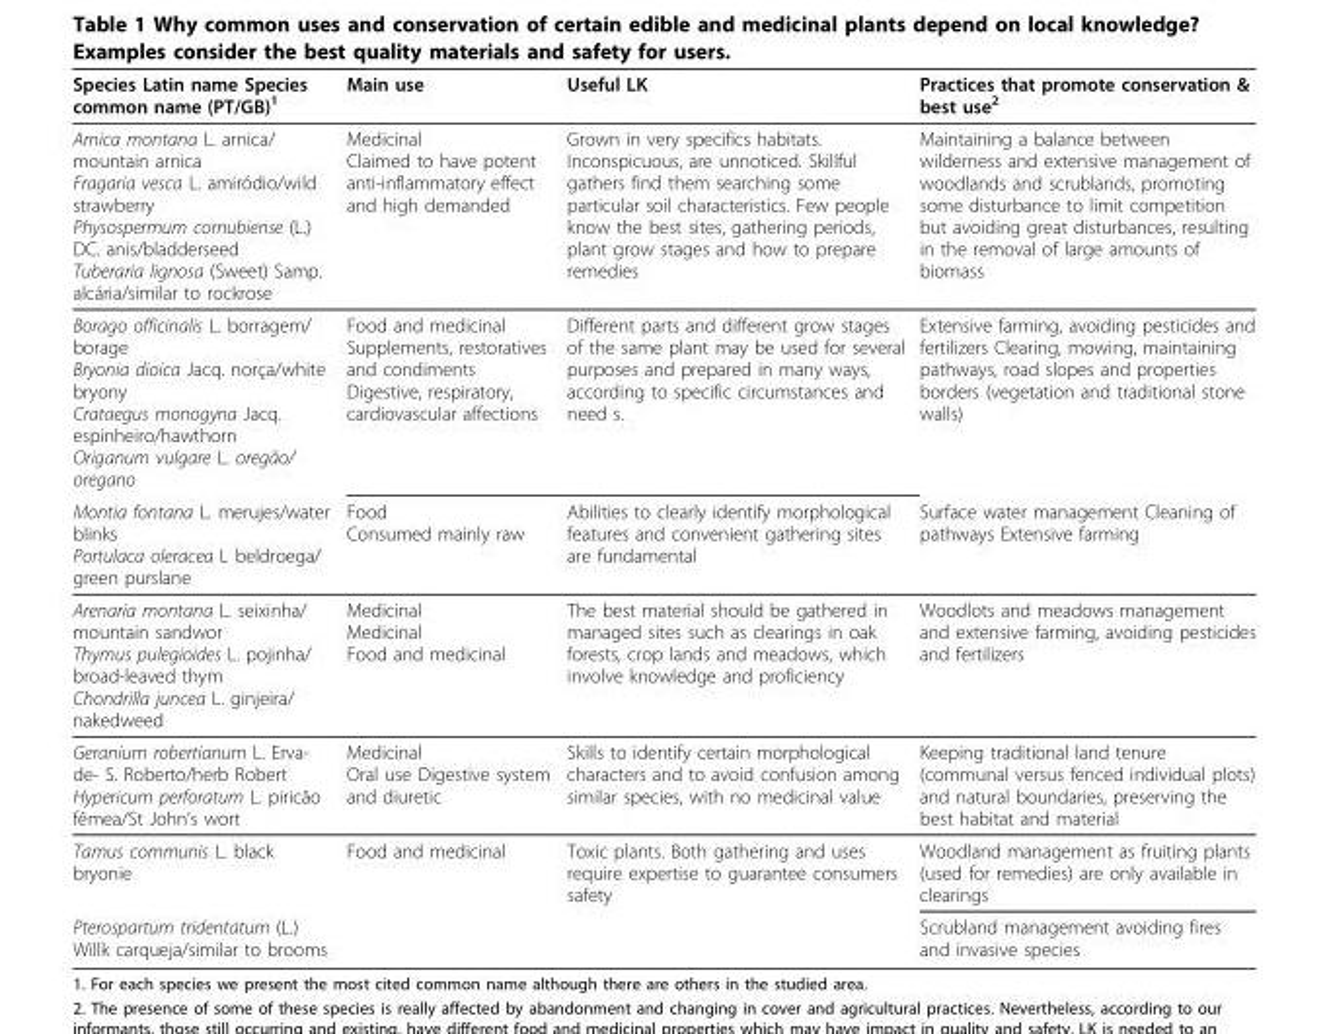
<table><thead><tr><td>Species Latin name Species common name (PT/GB)<sup>1</sup></td><td>Main use</td><td>Useful LK</td><td>Practices that promote conservation &amp; best use<sup>2</sup></td></tr></thead><tbody><tr><td>Arnica montana L. arnica/ mountain arnica Fragaria vesca L. amiródio/wild strawberry Physospermum cornubiense (L.) DC. anis/bladderseed Tuberaria lignosa (Sweet) Samp. alcária/similar to rockrose</td><td>Medicinal Claimed to have potent anti-inflammatory effect and high demanded</td><td>Grown in very specifics habitats. Inconspicuous, are unnoticed. Skillful gathers find them searching some particular soil characteristics. Few people know the best sites, gathering periods, plant grow stages and how to prepare remedies</td><td>Maintaining a balance between wilderness and extensive management of woodlands and scrublands, promoting some disturbance to limit competition but avoiding great disturbances, resulting in the removal of large amounts of biomass</td></tr><tr><td>Borago officinalis L. borragem/ borage Bryonia dioica Jacq. norça/white bryony Crataegus monogyna Jacq. espinheiro/hawthorn Origanum vulgare L. oregão/ oregano</td><td>Food and medicinal Supplements, restoratives and condiments Digestive, respiratory, cardiovascular affections</td><td>Different parts and different grow stages of the same plant may be used for several purposes and prepared in many ways, according to specific circumstances and need s.</td><td>Extensive farming, avoiding pesticides and fertilizers Clearing, mowing, maintaining pathways, road slopes and properties borders (vegetation and traditional stone walls)</td></tr><tr><td>Montia fontana L. merujes/water blinks Portulaca oleracea L beldroega/ green purslane</td><td>Food Consumed mainly raw</td><td>Abilities to clearly identify morphological features and convenient gathering sites are fundamental</td><td>Surface water management Cleaning of pathways Extensive farming</td></tr><tr><td>Arenaria montana L. seixinha/ mountain sandwor Thymus pulegioides L. pojinha/ broad-leaved thym Chondrilla juncea L. ginjeira/ nakedweed</td><td>Medicinal Medicinal Food and medicinal</td><td>The best material should be gathered in managed sites such as clearings in oak forests, crop lands and meadows, which involve knowledge and proficiency</td><td>Woodlots and meadows management and extensive farming, avoiding pesticides and fertilizers</td></tr><tr><td>Geranium robertianum L. Erva- de- S. Roberto/herb Robert Hypericum perforatum L. piricão fêmea/St John’s wort</td><td>Medicinal Oral use Digestive system and diuretic</td><td>Skills to identify certain morphological characters and to avoid confusion among similar species, with no medicinal value</td><td>Keeping traditional land tenure (communal versus fenced individual plots) and natural boundaries, preserving the best habitat and material</td></tr><tr><td>Tamus communis L. black bryonie</td><td>Food and medicinal</td><td>Toxic plants. Both gathering and uses require expertise to guarantee consumers safety</td><td>Woodland management as fruiting plants (used for remedies) are only available in clearings</td></tr><tr><td>Pterospartum tridentatum (L.) Willk carqueja/similar to brooms</td><td></td><td></td><td>Scrubland management avoiding fires and invasive species</td></tr></tbody></table>